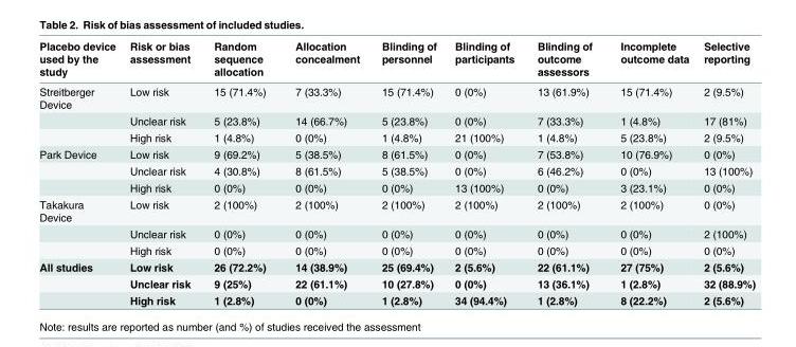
<table><thead><tr><td>Placebo device used by the study</td><td>Risk or bias assessment</td><td>Random sequence allocation</td><td>Allocation concealment</td><td>Blinding of personnel</td><td>Blinding of participants</td><td>Blinding of outcome assessors</td><td>Incomplete outcome data</td><td>Selective reporting</td></tr></thead><tbody><tr><td rowspan="3">Streitberger Device</td><td>Low risk</td><td>15 (71.4%)</td><td>7 (33.3%)</td><td>15 (71.4%)</td><td>0 (0%)</td><td>13 (61.9%)</td><td>15 (71.4%)</td><td>2 (9.5%)</td></tr><tr><td>Unclear risk</td><td>5 (23.8%)</td><td>14 (66.7%)</td><td>5 (23.8%)</td><td>0 (0%)</td><td>7 (33.3%)</td><td>1 (4.8%)</td><td>17 (81%)</td></tr><tr><td>High risk</td><td>1 (4.8%)</td><td>0 (0%)</td><td>1 (4.8%)</td><td>21 (100%)</td><td>1 (4.8%)</td><td>5 (23.8%)</td><td>2 (9.5%)</td></tr><tr><td rowspan="3">Park Device</td><td>Low risk</td><td>9 (69.2%)</td><td>5 (38.5%)</td><td>8 (61.5%)</td><td>0 (0%)</td><td>7 (53.8%)</td><td>10 (76.9%)</td><td>0 (0%)</td></tr><tr><td>Unclear risk</td><td>4 (30.8%)</td><td>8 (61.5%)</td><td>5 (38.5%)</td><td>0 (0%)</td><td>6 (46.2%)</td><td>0 (0%)</td><td>13 (100%)</td></tr><tr><td>High risk</td><td>0 (0%)</td><td>0 (0%)</td><td>0 (0%)</td><td>13 (100%)</td><td>0 (0%)</td><td>3 (23.1%)</td><td>0 (0%)</td></tr><tr><td rowspan="3">Takakura Device</td><td>Low risk</td><td>2 (100%)</td><td>2 (100%)</td><td>2 (100%)</td><td>2 (100%)</td><td>2 (100%)</td><td>2 (100%)</td><td>0 (0%)</td></tr><tr><td>Unclear risk</td><td>0 (0%)</td><td>0 (0%)</td><td>0 (0%)</td><td>0 (0%)</td><td>0 (0%)</td><td>0 (0%)</td><td>2 (100%)</td></tr><tr><td>High risk</td><td>0 (0%)</td><td>0 (0%)</td><td>0 (0%)</td><td>0 (0%)</td><td>0 (0%)</td><td>0 (0%)</td><td>0 (0%)</td></tr><tr><td rowspan="3">All studies</td><td>Low risk</td><td>26 (72.2%)</td><td>14 (38.9%)</td><td>25 (69.4%)</td><td>2 (5.6%)</td><td>22 (61.1%)</td><td>27 (75%)</td><td>2 (5.6%)</td></tr><tr><td>Unclear risk</td><td>9 (25%)</td><td>22 (61.1%)</td><td>10 (27.8%)</td><td>0 (0%)</td><td>13 (36.1%)</td><td>1 (2.8%)</td><td>32 (88.9%)</td></tr><tr><td>High risk</td><td>1 (2.8%)</td><td>0 (0%)</td><td>1 (2.8%)</td><td>34 (94.4%)</td><td>1 (2.8%)</td><td>8 (22.2%)</td><td>2 (5.6%)</td></tr></tbody></table>